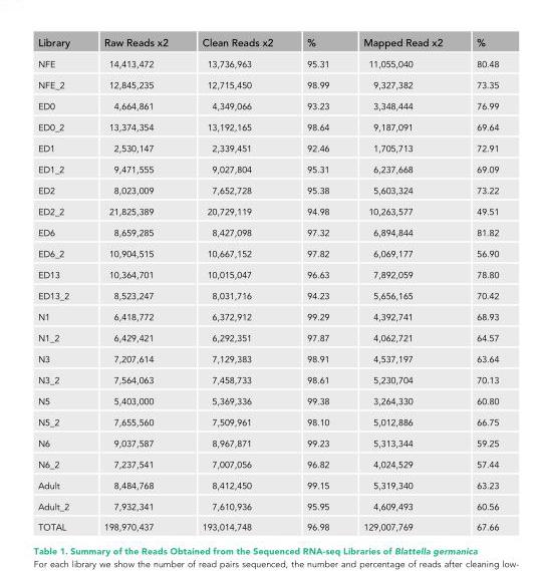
<table><thead><tr><td>Library</td><td>Raw Reads x2</td><td>Clean Reads x2</td><td>%</td><td>Mapped Read x2</td><td>%</td></tr></thead><tbody><tr><td>NFE</td><td>14,413,472</td><td>13,736,963</td><td>95.31</td><td>11,055,040</td><td>80.48</td></tr><tr><td>NFE_2</td><td>12,845,235</td><td>12,715,450</td><td>98.99</td><td>9,327,382</td><td>73.35</td></tr><tr><td>ED0</td><td>4,664,861</td><td>4,349,066</td><td>93.23</td><td>3,348,444</td><td>76.99</td></tr><tr><td>ED0_2</td><td>13,374,354</td><td>13,192,165</td><td>98.64</td><td>9,187,091</td><td>69.64</td></tr><tr><td>ED1</td><td>2,530,147</td><td>2,339,451</td><td>92.46</td><td>1,705,713</td><td>72.91</td></tr><tr><td>ED1_2</td><td>9,471,555</td><td>9,027,804</td><td>95.31</td><td>6,237,668</td><td>69.09</td></tr><tr><td>ED2</td><td>8,023,009</td><td>7,652,728</td><td>95.38</td><td>5,603,324</td><td>73.22</td></tr><tr><td>ED2_2</td><td>21,825,389</td><td>20,729,119</td><td>94.98</td><td>10,263,577</td><td>49.51</td></tr><tr><td>ED6</td><td>8,659,285</td><td>8,427,098</td><td>97.32</td><td>6,894,844</td><td>81.82</td></tr><tr><td>ED6_2</td><td>10,904,515</td><td>10,667,152</td><td>97.82</td><td>6,069,177</td><td>56.90</td></tr><tr><td>ED13</td><td>10,364,701</td><td>10,015,047</td><td>96.63</td><td>7,892,059</td><td>78.80</td></tr><tr><td>ED13_2</td><td>8,523,247</td><td>8,031,716</td><td>94.23</td><td>5,656,165</td><td>70.42</td></tr><tr><td>N1</td><td>6,418,772</td><td>6,372,912</td><td>99.29</td><td>4,392,741</td><td>68.93</td></tr><tr><td>N1_2</td><td>6,429,421</td><td>6,292,351</td><td>97.87</td><td>4,062,721</td><td>64.57</td></tr><tr><td>N3</td><td>7,207,614</td><td>7,129,383</td><td>98.91</td><td>4,537,197</td><td>63.64</td></tr><tr><td>N3_2</td><td>7,564,063</td><td>7,458,733</td><td>98.61</td><td>5,230,704</td><td>70.13</td></tr><tr><td>N5</td><td>5,403,000</td><td>5,369,336</td><td>99.38</td><td>3,264,330</td><td>60.80</td></tr><tr><td>N5_2</td><td>7,655,560</td><td>7,509,961</td><td>98.10</td><td>5,012,886</td><td>66.75</td></tr><tr><td>N6</td><td>9,037,587</td><td>8,967,871</td><td>99.23</td><td>5,313,344</td><td>59.25</td></tr><tr><td>N6_2</td><td>7,237,541</td><td>7,007,056</td><td>96.82</td><td>4,024,529</td><td>57.44</td></tr><tr><td>Adult</td><td>8,484,768</td><td>8,412,450</td><td>99.15</td><td>5,319,340</td><td>63.23</td></tr><tr><td>Adult_2</td><td>7,932,341</td><td>7,610,936</td><td>95.95</td><td>4,609,493</td><td>60.56</td></tr><tr><td>TOTAL</td><td>198,970,437</td><td>193,014,748</td><td>96.98</td><td>129,007,769</td><td>67.66</td></tr></tbody></table>